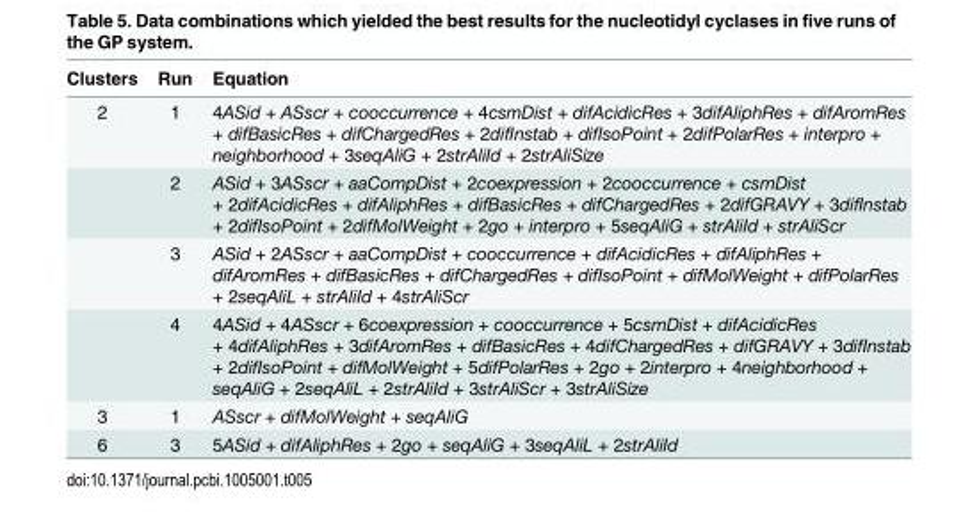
<table><thead><tr><td>Clusters</td><td>Run</td><td>Equation</td></tr></thead><tbody><tr><td rowspan="4">2</td><td>1</td><td>4ASid + ASscr + cooccurrence + 4csmDist + difAcidicRes + 3difAliphRes + difAromRes + difBasicRes + difChargedRes + 2difInstab + difIsoPoint + 2difPolarRes + interpro + neighborhood + 3seqAliG + 2strAliId + 2strAliSize</td></tr><tr><td>2</td><td>ASid + 3ASscr + aaCompDist + 2coexpression + 2cooccurrence + csmDist + 2difAcidicRes + difAliphRes + difBasicRes + difChargedRes + 2difGRAVY + 3difInstab + 2difIsoPoint + 2difMolWeight + 2go + interpro + 5seqAliG + strAliId + strAliScr</td></tr><tr><td>3</td><td>ASid + 2ASscr + aaCompDist + cooccurrence + difAcidicRes + difAliphRes + difAromRes + difBasicRes + difChargedRes + difIsoPoint + difMolWeight + difPolarRes + 2seqAliL + strAliId + 4strAliScr</td></tr><tr><td>4</td><td>4ASid + 4ASscr + 6coexpression + cooccurrence + 5csmDist + difAcidicRes + 4difAliphRes + 3difAromRes + difBasicRes + 4difChargedRes + difGRAVY + 3difInstab + 2difIsoPoint + difMolWeight + 5difPolarRes + 2go + 2interpro + 4neighborhood + seqAliG + 2seqAliL + 2strAliId + 3strAliScr + 3strAliSize</td></tr><tr><td>3</td><td>1</td><td>ASscr + difMolWeight + seqAliG</td></tr><tr><td>6</td><td>3</td><td>5ASid + difAliphRes + 2go + seqAliG + 3seqAliL + 2strAliId</td></tr></tbody></table>